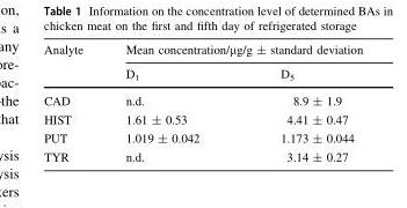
<table><thead><tr><td rowspan="2">Analyte</td><td colspan="2">Mean concentration/µg/g ± standard deviation</td></tr><tr><td>D<sub>1</sub></td><td>D<sub>5</sub></td></tr></thead><tbody><tr><td>CAD</td><td>n.d.</td><td>8.9 ± 1.9</td></tr><tr><td>HIST</td><td>1.61 ± 0.53</td><td>4.41 ± 0.47</td></tr><tr><td>PUT</td><td>1.019 ± 0.042</td><td>1.173 ± 0.044</td></tr><tr><td>TYR</td><td>n.d.</td><td>3.14 ± 0.27</td></tr></tbody></table>